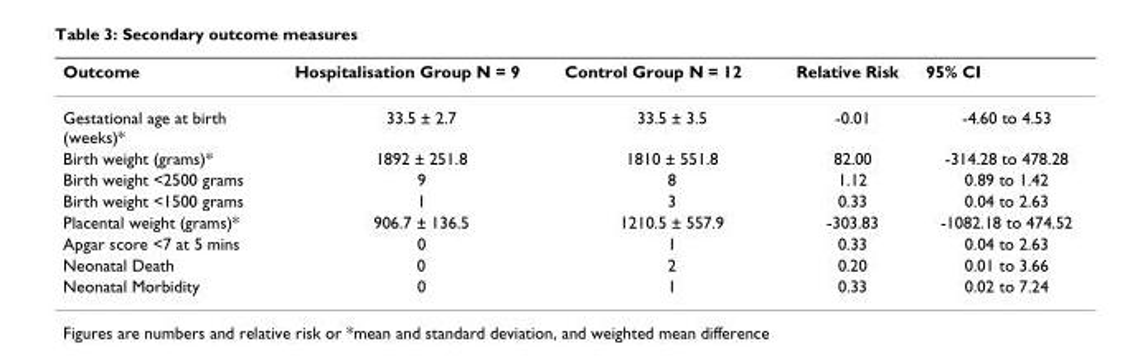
<table><thead><tr><td>Outcome</td><td>Hospitalisation Group N = 9</td><td>Control Group N = 12</td><td>Relative Risk</td><td>95% CI</td></tr></thead><tbody><tr><td>Gestational age at birth (weeks)*</td><td>33.5 ± 2.7</td><td>33.5 ± 3.5</td><td>-0.01</td><td>-4.60 to 4.53</td></tr><tr><td>Birth weight (grams)*</td><td>1892 ± 251.8</td><td>1810 ± 551.8</td><td>82.00</td><td>-314.28 to 478.28</td></tr><tr><td>Birth weight &lt;2500 grams</td><td>9</td><td>8</td><td>1.12</td><td>0.89 to 1.42</td></tr><tr><td>Birth weight &lt;1500 grams</td><td>1</td><td>3</td><td>0.33</td><td>0.04 to 2.63</td></tr><tr><td>Placental weight (grams)*</td><td>906.7 ± 136.5</td><td>1210.5 ± 557.9</td><td>-303.83</td><td>-1082.18 to 474.52</td></tr><tr><td>Apgar score &lt;7 at 5 mins</td><td>0</td><td>1</td><td>0.33</td><td>0.04 to 2.63</td></tr><tr><td>Neonatal Death</td><td>0</td><td>2</td><td>0.20</td><td>0.01 to 3.66</td></tr><tr><td>Neonatal Morbidity</td><td>0</td><td>1</td><td>0.33</td><td>0.02 to 7.24</td></tr></tbody></table>